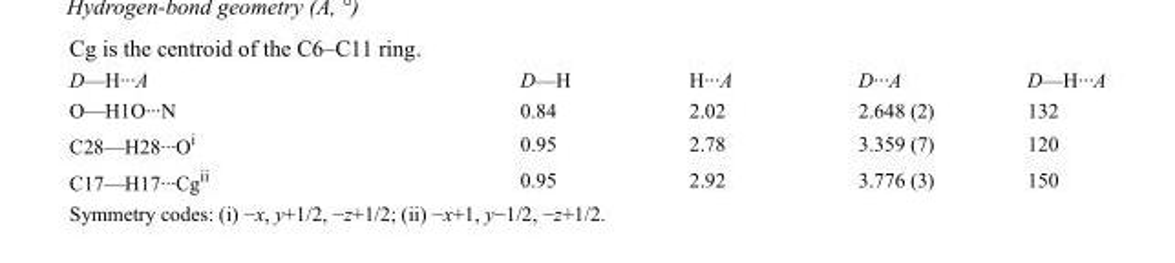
<table><tbody><tr><td>D—H···A</td><td>D—H</td><td>H···A</td><td>D···A</td><td>D—H···A</td></tr><tr><td>O—H1O···N</td><td>0.84</td><td>2.02</td><td>2.648 (2)</td><td>132</td></tr><tr><td>C28—H28···O<sup>i</sup></td><td>0.95</td><td>2.78</td><td>3.359 (7)</td><td>120</td></tr><tr><td>C17—H17···Cg<sup>ii</sup></td><td>0.95</td><td>2.92</td><td>3.776 (3)</td><td>150</td></tr></tbody></table>